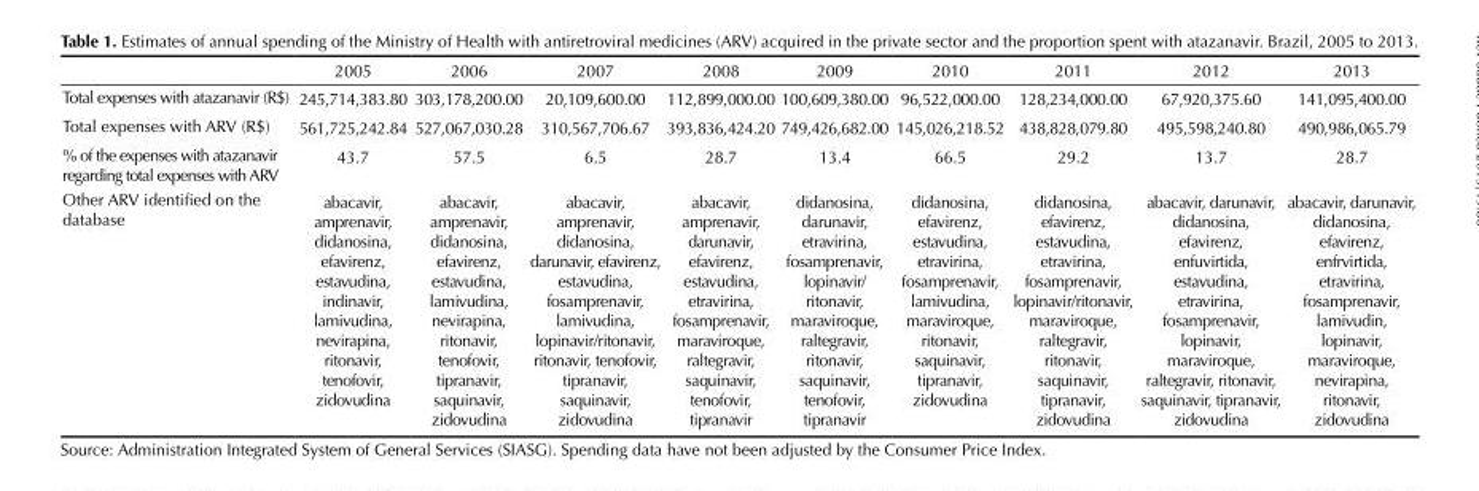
<table><thead><tr><td></td><td>2005</td><td>2006</td><td>2007</td><td>2008</td><td>2009</td><td>2010</td><td>2011</td><td>2012</td><td>2013</td></tr></thead><tbody><tr><td>Total expenses with atazanavir (R$)</td><td>245,714,383.80</td><td>303,178,200.00</td><td>20,109,600.00</td><td>112,899,000.00</td><td>100,609,380.00</td><td>96,522,000.00</td><td>128,234,000.00</td><td>67,920,375.60</td><td>141,095,400.00</td></tr><tr><td>Total expenses with ARV (R$)</td><td>561,725,242.84</td><td>527,067,030.28</td><td>310,567,706.67</td><td>393,836,424.20</td><td>749,426,682.00</td><td>145,026,218.52</td><td>438,828,079.80</td><td>495,598,240.80</td><td>490,986,065.79</td></tr><tr><td>% of the expenses with atazanavir regarding total expenses with ARV</td><td>43.7</td><td>57.5</td><td>6.5</td><td>28.7</td><td>13.4</td><td>66.5</td><td>29.2</td><td>13.7</td><td>28.7</td></tr><tr><td>Other ARV identified on the database</td><td>abacavir, amprenavir, didanosina, efavirenz, estavudina, indinavir, lamivudina, nevirapina, ritonavir, tenofovir, zidovudina</td><td>abacavir, amprenavir, didanosina, efavirenz, estavudina, lamivudina, nevirapina, ritonavir, tenofovir, tipranavir, saquinavir, zidovudina</td><td>abacavir, amprenavir, didanosina, darunavir, efavirenz, estavudina, fosamprenavir, lamivudina, lopinavir/ritonavir, ritonavir, tenofovir, tipranavir, saquinavir, zidovudina</td><td>abacavir, amprenavir, darunavir, efavirenz, estavudina, etravirina, fosamprenavir, maraviroque, raltegravir, saquinavir, tenofovir, tipranavir</td><td>didanosina, darunavir, etravirina, fosamprenavir, lopinavir/ ritonavir, maraviroque, raltegravir, ritonavir, saquinavir, tenofovir, tipranavir</td><td>didanosina, efavirenz, estavudina, etravirina, fosamprenavir, lamivudina, maraviroque, ritonavir, saquinavir, tipranavir, zidovudina</td><td>didanosina, efavirenz, estavudina, etravirina, fosamprenavir, lopinavir/ritonavir, maraviroque, raltegravir, ritonavir, saquinavir, tipranavir, zidovudina</td><td>abacavir, darunavir, didanosina, efavirenz, enfuvirtida, estavudina, etravirina, fosamprenavir, lopinavir, maraviroque, raltegravir, ritonavir, saquinavir, tipranavir, zidovudina</td><td>abacavir, darunavir, didanosina, efavirenz, enfrvirtida, etravirina, fosamprenavir, lamivudin, lopinavir, maraviroque, nevirapina, ritonavir, zidovudina</td></tr></tbody></table>